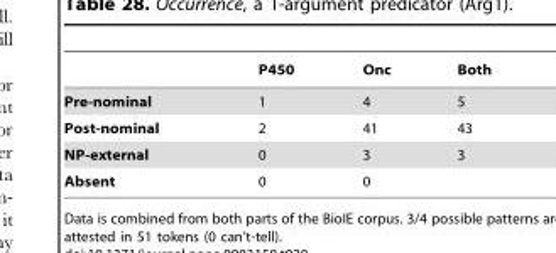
<table><thead><tr><td></td><td>P450</td><td>Onc</td><td>Both</td></tr></thead><tbody><tr><td>Pre-nominal</td><td>1</td><td>4</td><td>5</td></tr><tr><td>Post-nominal</td><td>2</td><td>41</td><td>43</td></tr><tr><td>NP-external</td><td>0</td><td>3</td><td>3</td></tr><tr><td>Absent</td><td>0</td><td>0</td><td></td></tr></tbody></table>